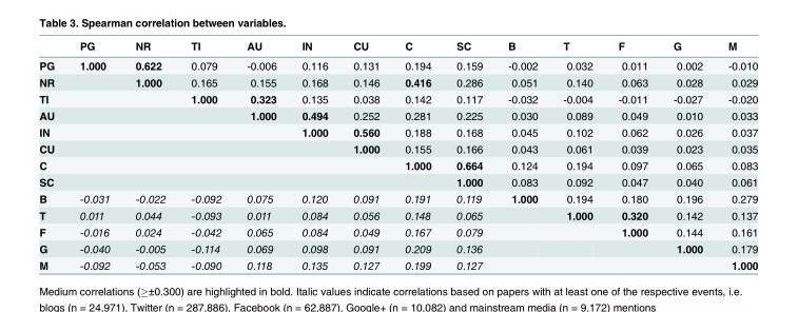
<table><thead><tr><td></td><td>PG</td><td>NR</td><td>TI</td><td>AU</td><td>IN</td><td>CU</td><td>C</td><td>SC</td><td>B</td><td>T</td><td>F</td><td>G</td><td>M</td></tr></thead><tbody><tr><td>PG</td><td>1.000</td><td>0.622</td><td>0.079</td><td>-0.006</td><td>0.116</td><td>0.131</td><td>0.194</td><td>0.159</td><td>-0.002</td><td>0.032</td><td>0.011</td><td>0.002</td><td>-0.010</td></tr><tr><td>NR</td><td></td><td>1.000</td><td>0.165</td><td>0.155</td><td>0.168</td><td>0.146</td><td>0.416</td><td>0.286</td><td>0.051</td><td>0.140</td><td>0.063</td><td>0.028</td><td>0.029</td></tr><tr><td>TI</td><td></td><td></td><td>1.000</td><td>0.323</td><td>0.135</td><td>0.038</td><td>0.142</td><td>0.117</td><td>-0.032</td><td>-0.004</td><td>-0.011</td><td>-0.027</td><td>-0.020</td></tr><tr><td>AU</td><td></td><td></td><td></td><td>1.000</td><td>0.494</td><td>0.252</td><td>0.281</td><td>0.225</td><td>0.030</td><td>0.089</td><td>0.049</td><td>0.010</td><td>0.033</td></tr><tr><td>IN</td><td></td><td></td><td></td><td></td><td>1.000</td><td>0.560</td><td>0.188</td><td>0.168</td><td>0.045</td><td>0.102</td><td>0.062</td><td>0.026</td><td>0.037</td></tr><tr><td>CU</td><td></td><td></td><td></td><td></td><td></td><td>1.000</td><td>0.155</td><td>0.166</td><td>0.043</td><td>0.061</td><td>0.039</td><td>0.023</td><td>0.035</td></tr><tr><td>C</td><td></td><td></td><td></td><td></td><td></td><td></td><td>1.000</td><td>0.664</td><td>0.124</td><td>0.194</td><td>0.097</td><td>0.065</td><td>0.083</td></tr><tr><td>SC</td><td></td><td></td><td></td><td></td><td></td><td></td><td></td><td>1.000</td><td>0.083</td><td>0.092</td><td>0.047</td><td>0.040</td><td>0.061</td></tr><tr><td>B</td><td>-0.031</td><td>-0.022</td><td>-0.092</td><td>0.075</td><td>0.120</td><td>0.091</td><td>0.191</td><td>0.119</td><td>1.000</td><td>0.194</td><td>0.180</td><td>0.196</td><td>0.279</td></tr><tr><td>T</td><td>0.011</td><td>0.044</td><td>-0.093</td><td>0.011</td><td>0.084</td><td>0.056</td><td>0.148</td><td>0.065</td><td></td><td>1.000</td><td>0.320</td><td>0.142</td><td>0.137</td></tr><tr><td>F</td><td>-0.016</td><td>0.024</td><td>-0.042</td><td>0.065</td><td>0.084</td><td>0.049</td><td>0.167</td><td>0.079</td><td></td><td></td><td>1.000</td><td>0.144</td><td>0.161</td></tr><tr><td>G</td><td>-0.040</td><td>-0.005</td><td>-0.114</td><td>0.069</td><td>0.098</td><td>0.091</td><td>0.209</td><td>0.136</td><td></td><td></td><td></td><td>1.000</td><td>0.179</td></tr><tr><td>M</td><td>-0.092</td><td>-0.053</td><td>-0.090</td><td>0.118</td><td>0.135</td><td>0.127</td><td>0.199</td><td>0.127</td><td></td><td></td><td></td><td></td><td>1.000</td></tr></tbody></table>